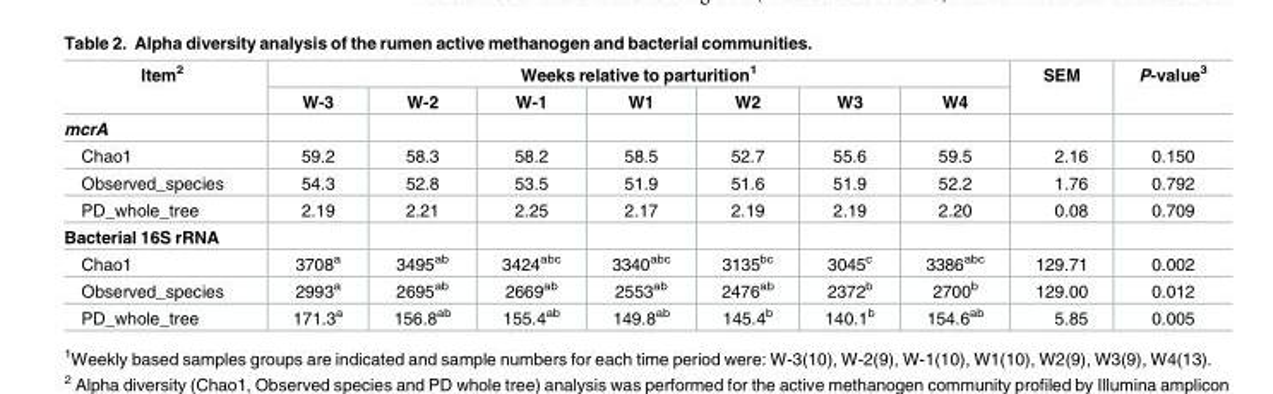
<table><thead><tr><td rowspan="2">Item<sup>2</sup></td><td colspan="7">Weeks relative to parturition<sup>1</sup></td><td rowspan="2">SEM</td><td rowspan="2">P-value<sup>3</sup></td></tr><tr><td>W-3</td><td>W-2</td><td>W-1</td><td>W1</td><td>W2</td><td>W3</td><td>W4</td></tr></thead><tbody><tr><td colspan="10">mcrA</td></tr><tr><td>Chao1</td><td>59.2</td><td>58.3</td><td>58.2</td><td>58.5</td><td>52.7</td><td>55.6</td><td>59.5</td><td>2.16</td><td>0.150</td></tr><tr><td>Observed_species</td><td>54.3</td><td>52.8</td><td>53.5</td><td>51.9</td><td>51.6</td><td>51.9</td><td>52.2</td><td>1.76</td><td>0.792</td></tr><tr><td>PD_whole_tree</td><td>2.19</td><td>2.21</td><td>2.25</td><td>2.17</td><td>2.19</td><td>2.19</td><td>2.20</td><td>0.08</td><td>0.709</td></tr><tr><td colspan="10">Bacterial 16S rRNA</td></tr><tr><td>Chao1</td><td>3708<sup>a</sup></td><td>3495<sup>ab</sup></td><td>3424<sup>abc</sup></td><td>3340<sup>abc</sup></td><td>3135<sup>bc</sup></td><td>3045<sup>c</sup></td><td>3386<sup>abc</sup></td><td>129.71</td><td>0.002</td></tr><tr><td>Observed_species</td><td>2993<sup>a</sup></td><td>2695<sup>ab</sup></td><td>2669<sup>ab</sup></td><td>2553<sup>ab</sup></td><td>2476<sup>ab</sup></td><td>2372<sup>b</sup></td><td>2700<sup>b</sup></td><td>129.00</td><td>0.012</td></tr><tr><td>PD_whole_tree</td><td>171.3<sup>a</sup></td><td>156.8<sup>ab</sup></td><td>155.4<sup>ab</sup></td><td>149.8<sup>ab</sup></td><td>145.4<sup>b</sup></td><td>140.1<sup>b</sup></td><td>154.6<sup>ab</sup></td><td>5.85</td><td>0.005</td></tr></tbody></table>